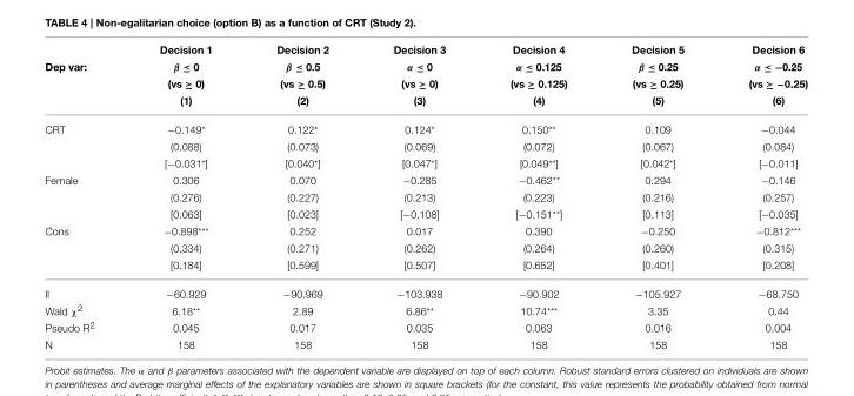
<table><thead><tr><td rowspan="4">Dep var:</td><td rowspan="4">Decision 1 β ≤ 0 (vs ≥ 0) (1)</td><td rowspan="4">Decision 2 β ≤ 0.5 (vs ≥ 0.5) (2)</td><td rowspan="4">Decision 3 α ≤ 0 (vs ≥ 0) (3)</td><td rowspan="4">Decision 4 α ≤ 0.125 (vs ≥ 0.125) (4)</td><td rowspan="4">Decision 5 β ≤ 0.25 (vs ≥ 0.25) (5)</td><td rowspan="4">Decision 6 α ≤ −0.25 (vs ≥ −0.25) (6)</td></tr><tr></tr><tr></tr><tr></tr></thead><tbody><tr><td rowspan="3">CRT</td><td>−0.149*</td><td>0.122*</td><td>0.124*</td><td>0.150**</td><td>0.109</td><td>−0.044</td></tr><tr><td>(0.088)</td><td>(0.073)</td><td>(0.069)</td><td>(0.072)</td><td>(0.067)</td><td>(0.084)</td></tr><tr><td>[−0.031*]</td><td>[0.040*]</td><td>[0.047*]</td><td>[0.049**]</td><td>[0.042*]</td><td>[−0.011]</td></tr><tr><td rowspan="3">Female</td><td>0.306</td><td>0.070</td><td>−0.285</td><td>−0.462**</td><td>0.294</td><td>−0.146</td></tr><tr><td>(0.276)</td><td>(0.227)</td><td>(0.213)</td><td>(0.223)</td><td>(0.216)</td><td>(0.257)</td></tr><tr><td>[0.063]</td><td>[0.023]</td><td>[−0.108]</td><td>[−0.151**]</td><td>[0.113]</td><td>[−0.035]</td></tr><tr><td rowspan="3">Cons</td><td>−0.898***</td><td>0.252</td><td>0.017</td><td>0.390</td><td>−0.250</td><td>−0.812***</td></tr><tr><td>(0.334)</td><td>(0.271)</td><td>(0.262)</td><td>(0.264)</td><td>(0.260)</td><td>(0.315)</td></tr><tr><td>[0.184]</td><td>[0.599]</td><td>[0.507]</td><td>[0.652]</td><td>[0.401]</td><td>[0.208]</td></tr><tr><td>ll</td><td>−60.929</td><td>−90.969</td><td>−103.938</td><td>−90.902</td><td>−105.927</td><td>−68.750</td></tr><tr><td>Wald χ<sup>2</sup></td><td>6.18**</td><td>2.89</td><td>6.86**</td><td>10.74***</td><td>3.35</td><td>0.44</td></tr><tr><td>Pseudo R<sup>2</sup></td><td>0.045</td><td>0.017</td><td>0.035</td><td>0.063</td><td>0.016</td><td>0.004</td></tr><tr><td>N</td><td>158</td><td>158</td><td>158</td><td>158</td><td>158</td><td>158</td></tr></tbody></table>